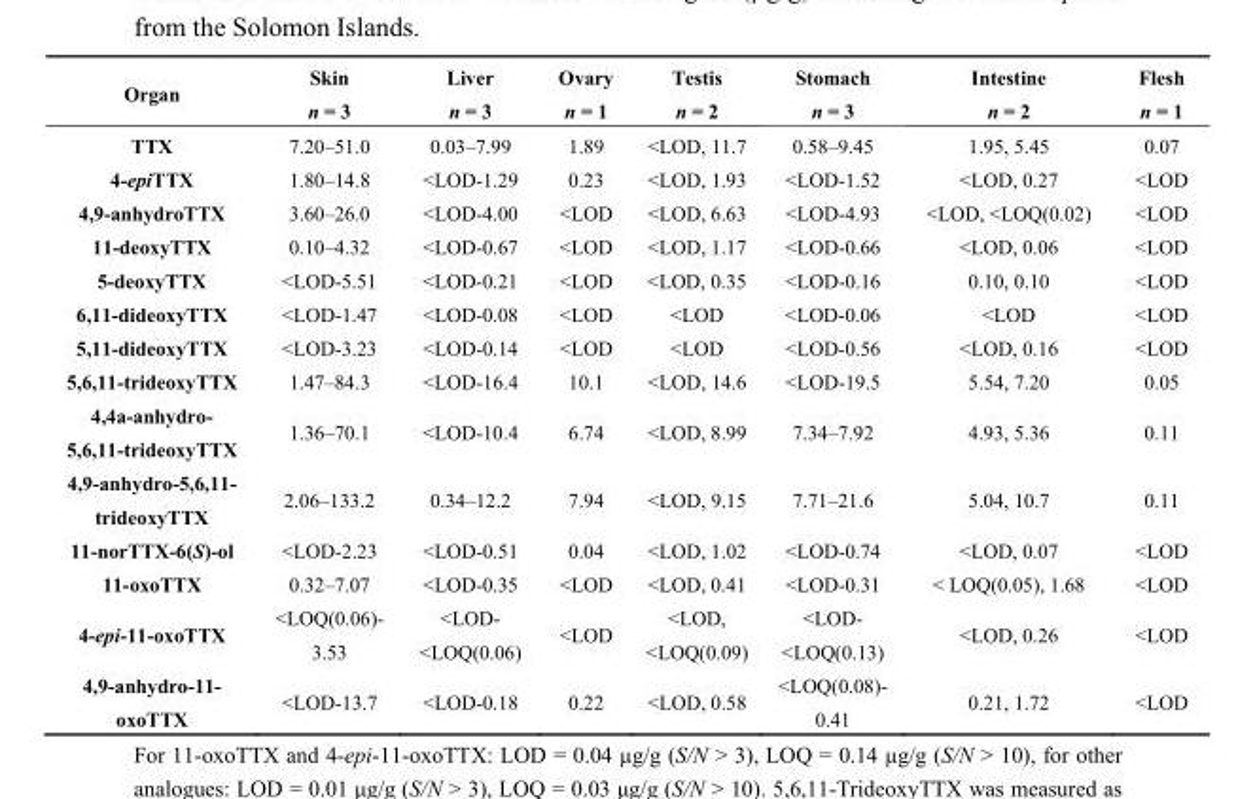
<table><thead><tr><td rowspan="2">Organ</td><td rowspan="2">Skin n = 3</td><td rowspan="2">Liver n = 3</td><td rowspan="2">Ovary n = 1</td><td rowspan="2">Testis n = 2</td><td rowspan="2">Stomach n = 3</td><td rowspan="2">Intestine n = 2</td><td rowspan="2">Flesh n = 1</td></tr><tr></tr></thead><tbody><tr><td>TTX</td><td>7.20–51.0</td><td>0.03–7.99</td><td>1.89</td><td>&lt;LOD, 11.7</td><td>0.58–9.45</td><td>1.95, 5.45</td><td>0.07</td></tr><tr><td>4-epiTTX</td><td>1.80–14.8</td><td>&lt;LOD-1.29</td><td>0.23</td><td>&lt;LOD, 1.93</td><td>&lt;LOD-1.52</td><td>&lt;LOD, 0.27</td><td>&lt;LOD</td></tr><tr><td>4,9-anhydroTTX</td><td>3.60–26.0</td><td>&lt;LOD-4.00</td><td>&lt;LOD</td><td>&lt;LOD, 6.63</td><td>&lt;LOD-4.93</td><td>&lt;LOD, &lt;LOQ(0.02)</td><td>&lt;LOD</td></tr><tr><td>11-deoxyTTX</td><td>0.10–4.32</td><td>&lt;LOD-0.67</td><td>&lt;LOD</td><td>&lt;LOD, 1.17</td><td>&lt;LOD-0.66</td><td>&lt;LOD, 0.06</td><td>&lt;LOD</td></tr><tr><td>5-deoxyTTX</td><td>&lt;LOD-5.51</td><td>&lt;LOD-0.21</td><td>&lt;LOD</td><td>&lt;LOD, 0.35</td><td>&lt;LOD-0.16</td><td>0.10, 0.10</td><td>&lt;LOD</td></tr><tr><td>6,11-dideoxyTTX</td><td>&lt;LOD-1.47</td><td>&lt;LOD-0.08</td><td>&lt;LOD</td><td>&lt;LOD</td><td>&lt;LOD-0.06</td><td>&lt;LOD</td><td>&lt;LOD</td></tr><tr><td>5,11-dideoxyTTX</td><td>&lt;LOD-3.23</td><td>&lt;LOD-0.14</td><td>&lt;LOD</td><td>&lt;LOD</td><td>&lt;LOD-0.56</td><td>&lt;LOD, 0.16</td><td>&lt;LOD</td></tr><tr><td>5,6,11-trideoxyTTX</td><td>1.47–84.3</td><td>&lt;LOD-16.4</td><td>10.1</td><td>&lt;LOD, 14.6</td><td>&lt;LOD-19.5</td><td>5.54, 7.20</td><td>0.05</td></tr><tr><td>4,4a-anhydro- 5,6,11-trideoxyTTX</td><td>1.36–70.1</td><td>&lt;LOD-10.4</td><td>6.74</td><td>&lt;LOD, 8.99</td><td>7.34–7.92</td><td>4.93, 5.36</td><td>0.11</td></tr><tr><td>4,9-anhydro-5,6,11- trideoxyTTX</td><td>2.06–133.2</td><td>0.34–12.2</td><td>7.94</td><td>&lt;LOD, 9.15</td><td>7.71–21.6</td><td>5.04, 10.7</td><td>0.11</td></tr><tr><td>11-norTTX-6(S)-ol</td><td>&lt;LOD-2.23</td><td>&lt;LOD-0.51</td><td>0.04</td><td>&lt;LOD, 1.02</td><td>&lt;LOD-0.74</td><td>&lt;LOD, 0.07</td><td>&lt;LOD</td></tr><tr><td>11-oxoTTX</td><td>0.32–7.07</td><td>&lt;LOD-0.35</td><td>&lt;LOD</td><td>&lt;LOD, 0.41</td><td>&lt;LOD-0.31</td><td>&lt; LOQ(0.05), 1.68</td><td>&lt;LOD</td></tr><tr><td>4-epi-11-oxoTTX</td><td>&lt;LOQ(0.06)- 3.53</td><td>&lt;LOD- &lt;LOQ(0.06)</td><td>&lt;LOD</td><td>&lt;LOD, &lt;LOQ(0.09)</td><td>&lt;LOD- &lt;LOQ(0.13)</td><td>&lt;LOD, 0.26</td><td>&lt;LOD</td></tr><tr><td>4,9-anhydro-11- oxoTTX</td><td>&lt;LOD-13.7</td><td>&lt;LOD-0.18</td><td>0.22</td><td>&lt;LOD, 0.58</td><td>&lt;LOQ(0.08)- 0.41</td><td>0.21, 1.72</td><td>&lt;LOD</td></tr></tbody></table>